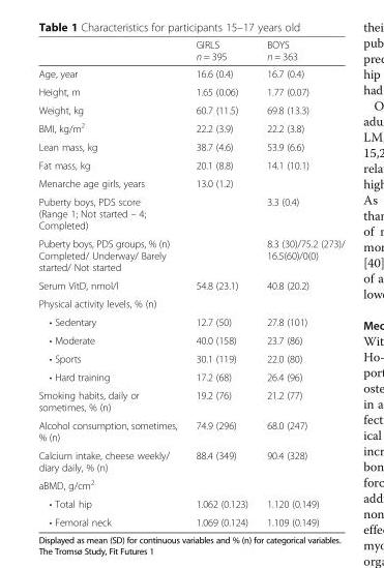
<table><thead><tr><td></td><td>GIRLS n = 395</td><td>BOYS n = 363</td></tr></thead><tbody><tr><td>Age, year</td><td>16.6 (0.4)</td><td>16.7 (0.4)</td></tr><tr><td>Height, m</td><td>1.65 (0.06)</td><td>1.77 (0.07)</td></tr><tr><td>Weight, kg</td><td>60.7 (11.5)</td><td>69.8 (13.3)</td></tr><tr><td>BMI, kg/m<sup>2</sup></td><td>22.2 (3.9)</td><td>22.2 (3.8)</td></tr><tr><td>Lean mass, kg</td><td>38.7 (4.6)</td><td>53.9 (6.6)</td></tr><tr><td>Fat mass, kg</td><td>20.1 (8.8)</td><td>14.1 (10.1)</td></tr><tr><td>Menarche age girls, years</td><td>13.0 (1.2)</td><td></td></tr><tr><td>Puberty boys, PDS score (Range 1; Not started – 4; Completed)</td><td></td><td>3.3 (0.4)</td></tr><tr><td>Puberty boys, PDS groups, % (n) Completed/ Underway/ Barely started/ Not started</td><td></td><td>8.3 (30)/75.2 (273)/ 16.5(60)/0(0)</td></tr><tr><td>Serum VitD, nmol/l</td><td>54.8 (23.1)</td><td>40.8 (20.2)</td></tr><tr><td colspan="3">Physical activity levels, % (n)</td></tr><tr><td>• Sedentary</td><td>12.7 (50)</td><td>27.8 (101)</td></tr><tr><td>• Moderate</td><td>40.0 (158)</td><td>23.7 (86)</td></tr><tr><td>• Sports</td><td>30.1 (119)</td><td>22.0 (80)</td></tr><tr><td>• Hard training</td><td>17.2 (68)</td><td>26.4 (96)</td></tr><tr><td>Smoking habits, daily or sometimes, % (n)</td><td>19.2 (76)</td><td>21.2 (77)</td></tr><tr><td>Alcohol consumption, sometimes, % (n)</td><td>74.9 (296)</td><td>68.0 (247)</td></tr><tr><td>Calcium intake, cheese weekly/ diary daily, % (n)</td><td>88.4 (349)</td><td>90.4 (328)</td></tr><tr><td colspan="3">aBMD, g/cm<sup>2</sup></td></tr><tr><td>• Total hip</td><td>1.062 (0.123)</td><td>1.120 (0.149)</td></tr><tr><td>• Femoral neck</td><td>1.069 (0.124)</td><td>1.109 (0.149)</td></tr></tbody></table>